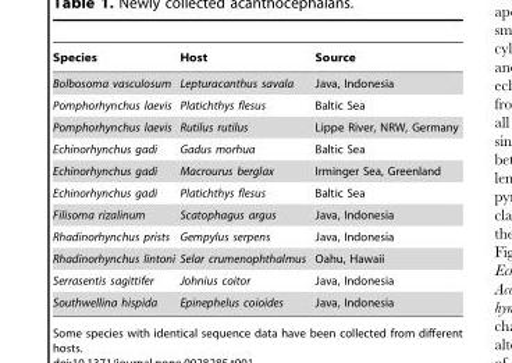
<table><thead><tr><td>Species</td><td>Host</td><td>Source</td></tr></thead><tbody><tr><td>Bolbosoma vasculosum</td><td>Lepturacanthus savala</td><td>Java, Indonesia</td></tr><tr><td>Pomphorhynchus laevis</td><td>Platichthys flesus</td><td>Baltic Sea</td></tr><tr><td>Pomphorhynchus laevis</td><td>Rutilus rutilus</td><td>Lippe River, NRW, Germany</td></tr><tr><td>Echinorhynchus gadi</td><td>Gadus morhua</td><td>Baltic Sea</td></tr><tr><td>Echinorhynchus gadi</td><td>Macrourus berglax</td><td>Irminger Sea, Greenland</td></tr><tr><td>Echinorhynchus gadi</td><td>Platichthys flesus</td><td>Baltic Sea</td></tr><tr><td>Filisoma rizalinum</td><td>Scatophagus argus</td><td>Java, Indonesia</td></tr><tr><td>Rhadinorhynchus prists</td><td>Gempylus serpens</td><td>Java, Indonesia</td></tr><tr><td>Rhadinorhynchus lintoni</td><td>Selar crumenophthalmus</td><td>Oahu, Hawaii</td></tr><tr><td>Serrasentis sagittifer</td><td>Johnius coitor</td><td>Java, Indonesia</td></tr><tr><td>Southwellina hispida</td><td>Epinephelus coioides</td><td>Java, Indonesia</td></tr></tbody></table>